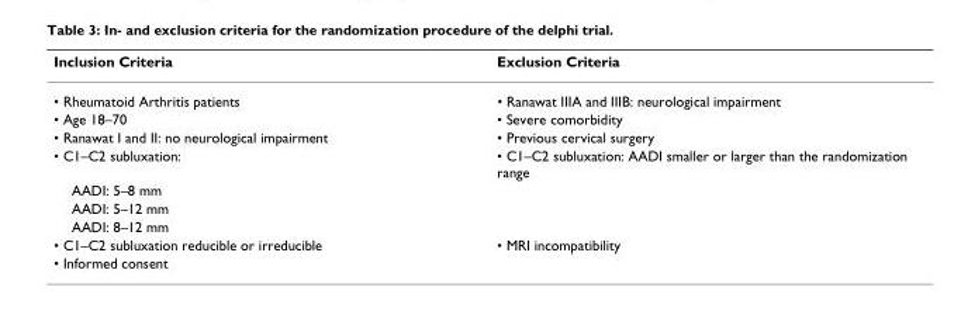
<table><thead><tr><td>Inclusion Criteria</td><td>Exclusion Criteria</td></tr></thead><tbody><tr><td>• Rheumatoid Arthritis patients</td><td>• Ranawat IIIA and IIIB: neurological impairment</td></tr><tr><td>• Age 18–70</td><td>• Severe comorbidity</td></tr><tr><td>• Ranawat I and II: no neurological impairment</td><td>• Previous cervical surgery</td></tr><tr><td>• C1–C2 subluxation:</td><td>• C1–C2 subluxation: AADI smaller or larger than the randomization range</td></tr><tr><td colspan="2">AADI: 5–8 mm</td></tr><tr><td colspan="2">AADI: 5–12 mm</td></tr><tr><td colspan="2">AADI: 8–12 mm</td></tr><tr><td>• C1–C2 subluxation reducible or irreducible</td><td>• MRI incompatibility</td></tr><tr><td>• Informed consent</td><td></td></tr></tbody></table>